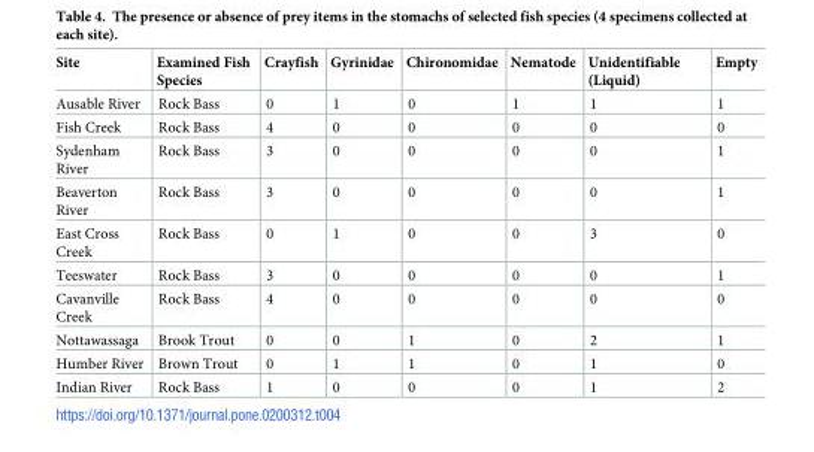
<table><thead><tr><td>Site</td><td>Examined Fish Species</td><td>Crayfish</td><td>Gyrinidae</td><td>Chironomidae</td><td>Nematode</td><td>Unidentifiable (Liquid)</td><td>Empty</td></tr></thead><tbody><tr><td>Ausable River</td><td>Rock Bass</td><td>0</td><td>1</td><td>0</td><td>1</td><td>1</td><td>1</td></tr><tr><td>Fish Creek</td><td>Rock Bass</td><td>4</td><td>0</td><td>0</td><td>0</td><td>0</td><td>0</td></tr><tr><td>Sydenham River</td><td>Rock Bass</td><td>3</td><td>0</td><td>0</td><td>0</td><td>0</td><td>1</td></tr><tr><td>Beaverton River</td><td>Rock Bass</td><td>3</td><td>0</td><td>0</td><td>0</td><td>0</td><td>1</td></tr><tr><td>East Cross Creek</td><td>Rock Bass</td><td>0</td><td>1</td><td>0</td><td>0</td><td>3</td><td>0</td></tr><tr><td>Teeswater</td><td>Rock Bass</td><td>3</td><td>0</td><td>0</td><td>0</td><td>0</td><td>1</td></tr><tr><td>Cavanville Creek</td><td>Rock Bass</td><td>4</td><td>0</td><td>0</td><td>0</td><td>0</td><td>0</td></tr><tr><td>Nottawassaga</td><td>Brook Trout</td><td>0</td><td>0</td><td>1</td><td>0</td><td>2</td><td>1</td></tr><tr><td>Humber River</td><td>Brown Trout</td><td>0</td><td>1</td><td>1</td><td>0</td><td>1</td><td>0</td></tr><tr><td>Indian River</td><td>Rock Bass</td><td>1</td><td>0</td><td>0</td><td>0</td><td>1</td><td>2</td></tr></tbody></table>